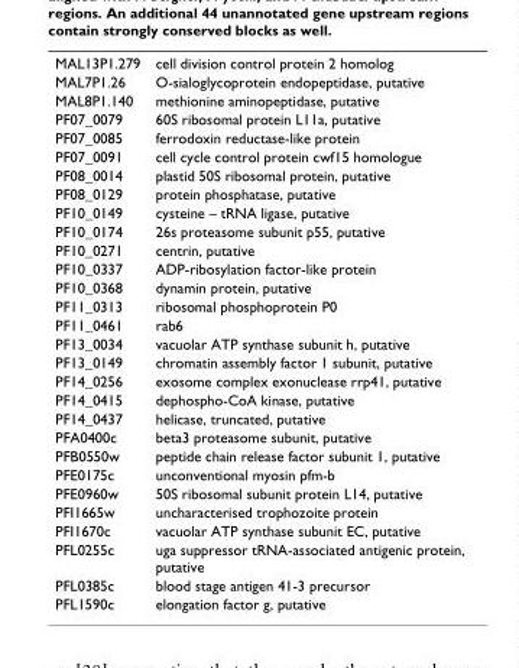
<table><tbody><tr><td>MAL13P1.279</td><td>cell division control protein 2 homolog</td></tr><tr><td>MAL7P1.26</td><td>O-sialoglycoprotein endopeptidase, putative</td></tr><tr><td>MAL8P1.140</td><td>methionine aminopeptidase, putative</td></tr><tr><td>PF07_0079</td><td>60S ribosomal protein L11a, putative</td></tr><tr><td>PF07_0085</td><td>ferrodoxin reductase-like protein</td></tr><tr><td>PF07_0091</td><td>cell cycle control protein cwf15 homologue</td></tr><tr><td>PF08_0014</td><td>plastid 50S ribosomal protein, putative</td></tr><tr><td>PF08_0129</td><td>protein phosphatase, putative</td></tr><tr><td>PF10_0149</td><td>cysteine – tRNA ligase, putative</td></tr><tr><td>PF10_0174</td><td>26s proteasome subunit p55, putative</td></tr><tr><td>PF10_0271</td><td>centrin, putative</td></tr><tr><td>PF10_0337</td><td>ADP-ribosylation factor-like protein</td></tr><tr><td>PF10_0368</td><td>dynamin protein, putative</td></tr><tr><td>PF11_0313</td><td>ribosomal phosphoprotein P0</td></tr><tr><td>PF11_0461</td><td>rab6</td></tr><tr><td>PF13_0034</td><td>vacuolar ATP synthase subunit h, putative</td></tr><tr><td>PF13_0149</td><td>chromatin assembly factor 1 subunit, putative</td></tr><tr><td>PF14_0256</td><td>exosome complex exonuclease rrp41, putative</td></tr><tr><td>PF14_0415</td><td>dephospho-CoA kinase, putative</td></tr><tr><td>PF14_0437</td><td>helicase, truncated, putative</td></tr><tr><td>PFA0400c</td><td>beta3 proteasome subunit, putative</td></tr><tr><td>PFB0550w</td><td>peptide chain release factor subunit 1, putative</td></tr><tr><td>PFE0175c</td><td>unconventional myosin pfm-b</td></tr><tr><td>PFE0960w</td><td>50S ribosomal subunit protein L14, putative</td></tr><tr><td>PFI1665w</td><td>uncharacterised trophozoite protein</td></tr><tr><td>PFI1670c</td><td>vacuolar ATP synthase subunit EC, putative</td></tr><tr><td>PFL0255c</td><td>uga suppressor tRNA-associated antigenic protein, putative</td></tr><tr><td>PFL0385c</td><td>blood stage antigen 41-3 precursor</td></tr><tr><td>PFL1590c</td><td>elongation factor g, putative</td></tr></tbody></table>